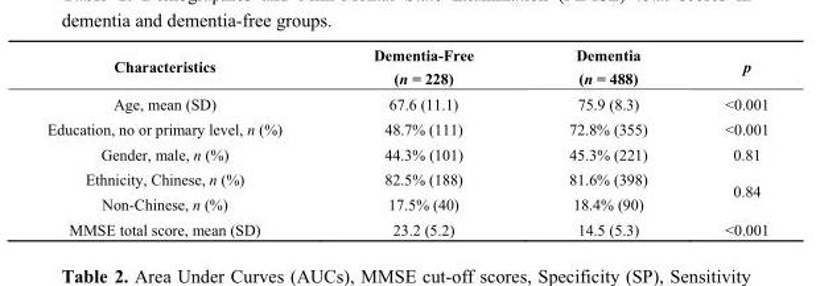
<table><thead><tr><td>Characteristics</td><td>Dementia-Free (n = 228)</td><td>Dementia (n = 488)</td><td>p</td></tr></thead><tbody><tr><td>Age, mean (SD)</td><td>67.6 (11.1)</td><td>75.9 (8.3)</td><td>&lt;0.001</td></tr><tr><td>Education, no or primary level, n (%)</td><td>48.7% (111)</td><td>72.8% (355)</td><td>&lt;0.001</td></tr><tr><td>Gender, male, n (%)</td><td>44.3% (101)</td><td>45.3% (221)</td><td>0.81</td></tr><tr><td>Ethnicity, Chinese, n (%)</td><td>82.5% (188)</td><td>81.6% (398)</td><td rowspan="2">0.84</td></tr><tr><td>Non-Chinese, n (%)</td><td>17.5% (40)</td><td>18.4% (90)</td></tr><tr><td>MMSE total score, mean (SD)</td><td>23.2 (5.2)</td><td>14.5 (5.3)</td><td>&lt;0.001</td></tr></tbody></table>